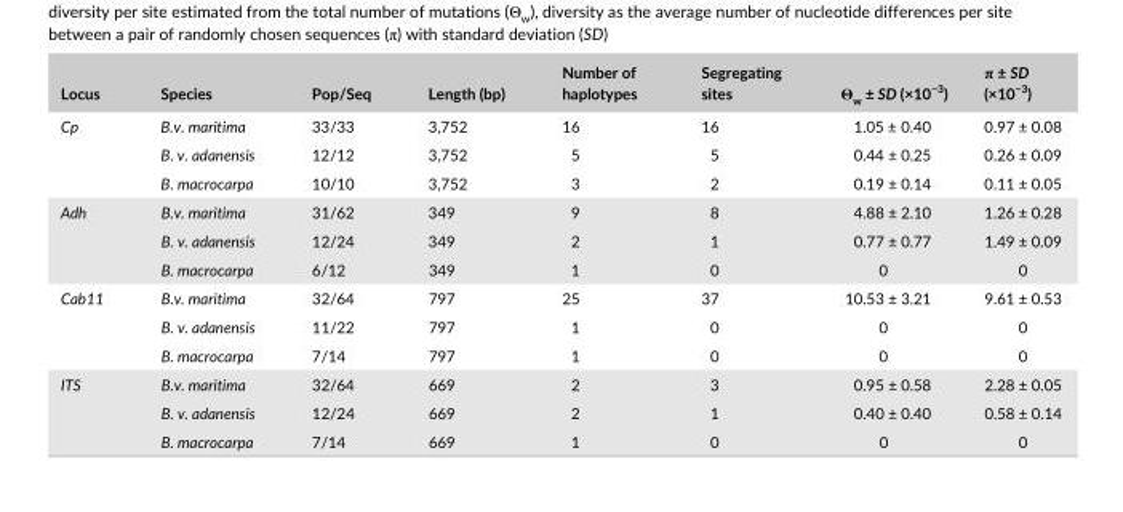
<table><thead><tr><td>Locus</td><td>Species</td><td>Pop/Seq</td><td>Length (bp)</td><td>Number of haplotypes</td><td>Segregating sites</td><td>Θ<sub>w</sub> ± SD (×10<sup>−3</sup>)</td><td>π ± SD (×10<sup>−3</sup>)</td></tr></thead><tbody><tr><td rowspan="3">Cp</td><td>B.v. maritima</td><td>33/33</td><td>3,752</td><td>16</td><td>16</td><td>1.05 ± 0.40</td><td>0.97 ± 0.08</td></tr><tr><td>B. v. adanensis</td><td>12/12</td><td>3,752</td><td>5</td><td>5</td><td>0.44 ± 0.25</td><td>0.26 ± 0.09</td></tr><tr><td>B. macrocarpa</td><td>10/10</td><td>3,752</td><td>3</td><td>2</td><td>0.19 ± 0.14</td><td>0.11 ± 0.05</td></tr><tr><td rowspan="3">Adh</td><td>B.v. maritima</td><td>31/62</td><td>349</td><td>9</td><td>8</td><td>4.88 ± 2.10</td><td>1.26 ± 0.28</td></tr><tr><td>B. v. adanensis</td><td>12/24</td><td>349</td><td>2</td><td>1</td><td>0.77 ± 0.77</td><td>1.49 ± 0.09</td></tr><tr><td>B. macrocarpa</td><td>6/12</td><td>349</td><td>1</td><td>0</td><td>0</td><td>0</td></tr><tr><td rowspan="3">Cab11</td><td>B.v. maritima</td><td>32/64</td><td>797</td><td>25</td><td>37</td><td>10.53 ± 3.21</td><td>9.61 ± 0.53</td></tr><tr><td>B. v. adanensis</td><td>11/22</td><td>797</td><td>1</td><td>0</td><td>0</td><td>0</td></tr><tr><td>B. macrocarpa</td><td>7/14</td><td>797</td><td>1</td><td>0</td><td>0</td><td>0</td></tr><tr><td rowspan="3">ITS</td><td>B.v. maritima</td><td>32/64</td><td>669</td><td>2</td><td>3</td><td>0.95 ± 0.58</td><td>2.28 ± 0.05</td></tr><tr><td>B. v. adanensis</td><td>12/24</td><td>669</td><td>2</td><td>1</td><td>0.40 ± 0.40</td><td>0.58 ± 0.14</td></tr><tr><td>B. macrocarpa</td><td>7/14</td><td>669</td><td>1</td><td>0</td><td>0</td><td>0</td></tr></tbody></table>